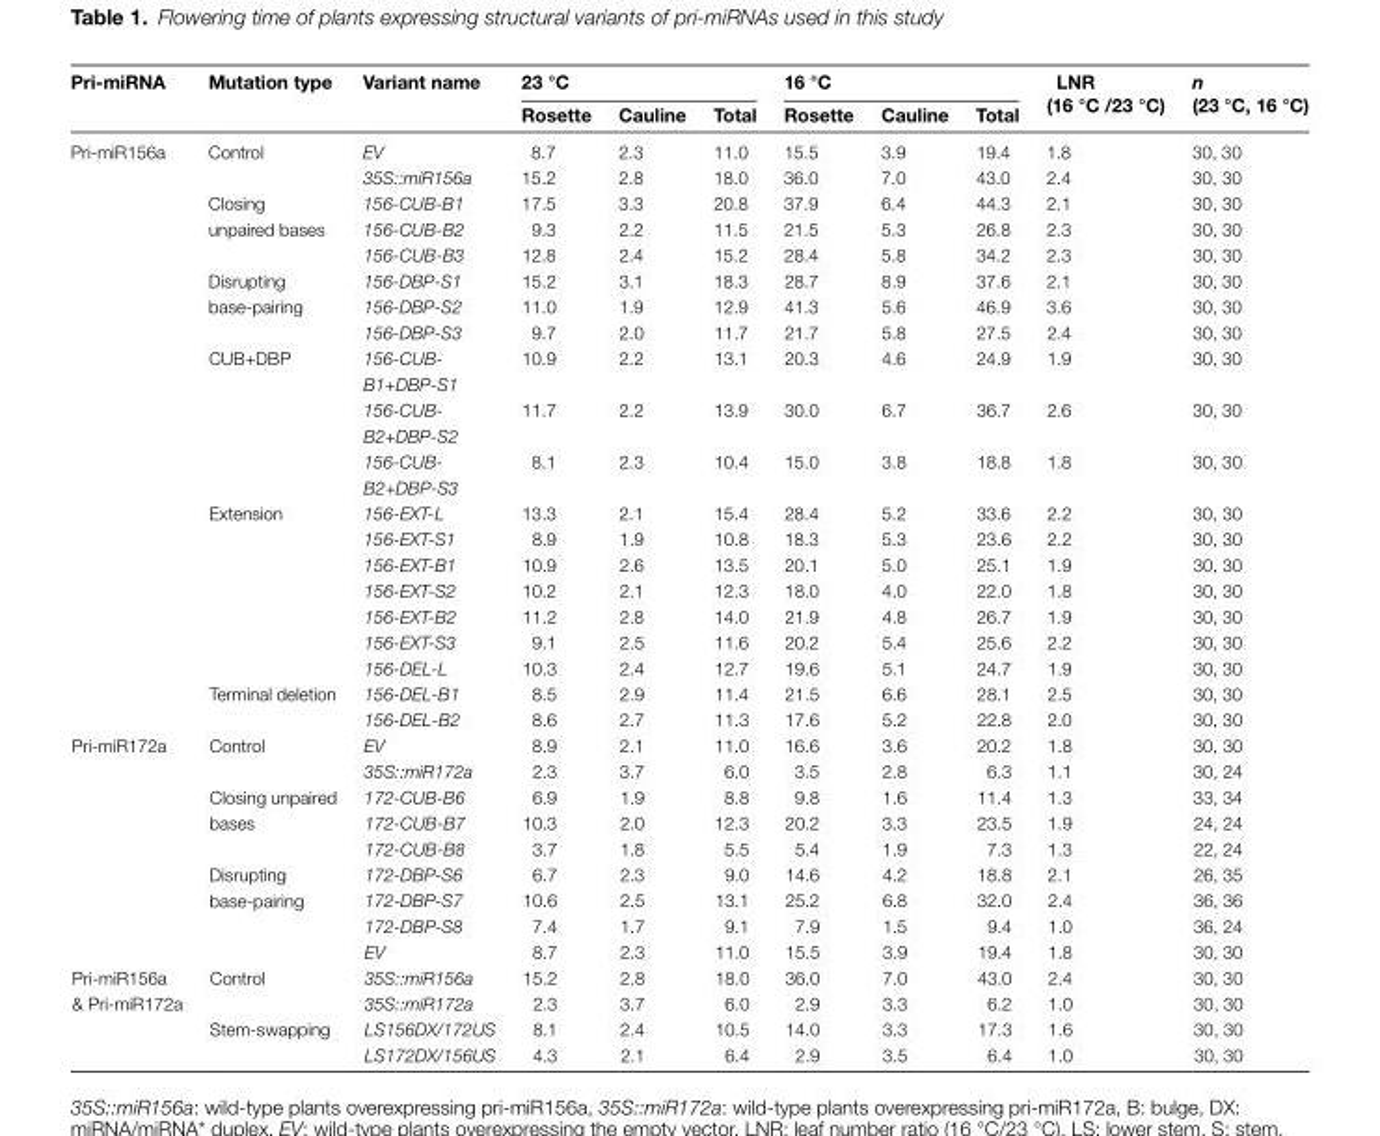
<table><thead><tr><td rowspan="2">Pri-miRNA</td><td rowspan="2">Mutation type</td><td rowspan="2">Variant name</td><td colspan="3">23 °C</td><td colspan="3">16 °C</td><td rowspan="2">LNR (16 °C /23 °C)</td><td rowspan="2">n (23 °C, 16 °C)</td></tr><tr><td>Rosette</td><td>Cauline</td><td>Total</td><td>Rosette</td><td>Cauline</td><td>Total</td></tr></thead><tbody><tr><td rowspan="20">Pri-miR156a</td><td rowspan="2">Control</td><td>EV</td><td>8.7</td><td>2.3</td><td>11.0</td><td>15.5</td><td>3.9</td><td>19.4</td><td>1.8</td><td>30, 30</td></tr><tr><td>35S::miR156a</td><td>15.2</td><td>2.8</td><td>18.0</td><td>36.0</td><td>7.0</td><td>43.0</td><td>2.4</td><td>30, 30</td></tr><tr><td rowspan="3">Closing unpaired bases</td><td>156-CUB-B1</td><td>17.5</td><td>3.3</td><td>20.8</td><td>37.9</td><td>6.4</td><td>44.3</td><td>2.1</td><td>30, 30</td></tr><tr><td>156-CUB-B2</td><td>9.3</td><td>2.2</td><td>11.5</td><td>21.5</td><td>5.3</td><td>26.8</td><td>2.3</td><td>30, 30</td></tr><tr><td>156-CUB-B3</td><td>12.8</td><td>2.4</td><td>15.2</td><td>28.4</td><td>5.8</td><td>34.2</td><td>2.3</td><td>30, 30</td></tr><tr><td rowspan="3">Disrupting base-pairing</td><td>156-DBP-S1</td><td>15.2</td><td>3.1</td><td>18.3</td><td>28.7</td><td>8.9</td><td>37.6</td><td>2.1</td><td>30, 30</td></tr><tr><td>156-DBP-S2</td><td>11.0</td><td>1.9</td><td>12.9</td><td>41.3</td><td>5.6</td><td>46.9</td><td>3.6</td><td>30, 30</td></tr><tr><td>156-DBP-S3</td><td>9.7</td><td>2.0</td><td>11.7</td><td>21.7</td><td>5.8</td><td>27.5</td><td>2.4</td><td>30, 30</td></tr><tr><td rowspan="3">CUB+DBP</td><td>156-CUB- B1+DBP-S1</td><td>10.9</td><td>2.2</td><td>13.1</td><td>20.3</td><td>4.6</td><td>24.9</td><td>1.9</td><td>30, 30</td></tr><tr><td>156-CUB- B2+DBP-S2</td><td>11.7</td><td>2.2</td><td>13.9</td><td>30.0</td><td>6.7</td><td>36.7</td><td>2.6</td><td>30, 30</td></tr><tr><td>156-CUB- B2+DBP-S3</td><td>8.1</td><td>2.3</td><td>10.4</td><td>15.0</td><td>3.8</td><td>18.8</td><td>1.8</td><td>30, 30</td></tr><tr><td rowspan="6">Extension</td><td>156-EXT-L</td><td>13.3</td><td>2.1</td><td>15.4</td><td>28.4</td><td>5.2</td><td>33.6</td><td>2.2</td><td>30, 30</td></tr><tr><td>156-EXT-S1</td><td>8.9</td><td>1.9</td><td>10.8</td><td>18.3</td><td>5.3</td><td>23.6</td><td>2.2</td><td>30, 30</td></tr><tr><td>156-EXT-B1</td><td>10.9</td><td>2.6</td><td>13.5</td><td>20.1</td><td>5.0</td><td>25.1</td><td>1.9</td><td>30, 30</td></tr><tr><td>156-EXT-S2</td><td>10.2</td><td>2.1</td><td>12.3</td><td>18.0</td><td>4.0</td><td>22.0</td><td>1.8</td><td>30, 30</td></tr><tr><td>156-EXT-B2</td><td>11.2</td><td>2.8</td><td>14.0</td><td>21.9</td><td>4.8</td><td>26.7</td><td>1.9</td><td>30, 30</td></tr><tr><td>156-EXT-S3</td><td>9.1</td><td>2.5</td><td>11.6</td><td>20.2</td><td>5.4</td><td>25.6</td><td>2.2</td><td>30, 30</td></tr><tr><td></td><td>156-DEL-L</td><td>10.3</td><td>2.4</td><td>12.7</td><td>19.6</td><td>5.1</td><td>24.7</td><td>1.9</td><td>30, 30</td></tr><tr><td>Terminal deletion</td><td>156-DEL-B1</td><td>8.5</td><td>2.9</td><td>11.4</td><td>21.5</td><td>6.6</td><td>28.1</td><td>2.5</td><td>30, 30</td></tr><tr><td></td><td>156-DEL-B2</td><td>8.6</td><td>2.7</td><td>11.3</td><td>17.6</td><td>5.2</td><td>22.8</td><td>2.0</td><td>30, 30</td></tr><tr><td rowspan="9">Pri-miR172a</td><td rowspan="2">Control</td><td>EV</td><td>8.9</td><td>2.1</td><td>11.0</td><td>16.6</td><td>3.6</td><td>20.2</td><td>1.8</td><td>30, 30</td></tr><tr><td>35S::miR172a</td><td>2.3</td><td>3.7</td><td>6.0</td><td>3.5</td><td>2.8</td><td>6.3</td><td>1.1</td><td>30, 24</td></tr><tr><td rowspan="3">Closing unpaired bases</td><td>172-CUB-B6</td><td>6.9</td><td>1.9</td><td>8.8</td><td>9.8</td><td>1.6</td><td>11.4</td><td>1.3</td><td>33, 34</td></tr><tr><td>172-CUB-B7</td><td>10.3</td><td>2.0</td><td>12.3</td><td>20.2</td><td>3.3</td><td>23.5</td><td>1.9</td><td>24, 24</td></tr><tr><td>172-CUB-B8</td><td>3.7</td><td>1.8</td><td>5.5</td><td>5.4</td><td>1.9</td><td>7.3</td><td>1.3</td><td>22, 24</td></tr><tr><td rowspan="3">Disrupting base-pairing</td><td>172-DBP-S6</td><td>6.7</td><td>2.3</td><td>9.0</td><td>14.6</td><td>4.2</td><td>18.8</td><td>2.1</td><td>26, 35</td></tr><tr><td>172-DBP-S7</td><td>10.6</td><td>2.5</td><td>13.1</td><td>25.2</td><td>6.8</td><td>32.0</td><td>2.4</td><td>36, 36</td></tr><tr><td>172-DBP-S8</td><td>7.4</td><td>1.7</td><td>9.1</td><td>7.9</td><td>1.5</td><td>9.4</td><td>1.0</td><td>36, 24</td></tr><tr><td></td><td>EV</td><td>8.7</td><td>2.3</td><td>11.0</td><td>15.5</td><td>3.9</td><td>19.4</td><td>1.8</td><td>30, 30</td></tr><tr><td rowspan="4">Pri-miR156a &amp; Pri-miR172a</td><td>Control</td><td>35S::miR156a</td><td>15.2</td><td>2.8</td><td>18.0</td><td>36.0</td><td>7.0</td><td>43.0</td><td>2.4</td><td>30, 30</td></tr><tr><td></td><td>35S::miR172a</td><td>2.3</td><td>3.7</td><td>6.0</td><td>2.9</td><td>3.3</td><td>6.2</td><td>1.0</td><td>30, 30</td></tr><tr><td rowspan="2">Stem-swapping</td><td>LS156DX/172US</td><td>8.1</td><td>2.4</td><td>10.5</td><td>14.0</td><td>3.3</td><td>17.3</td><td>1.6</td><td>30, 30</td></tr><tr><td>LS172DX/156US</td><td>4.3</td><td>2.1</td><td>6.4</td><td>2.9</td><td>3.5</td><td>6.4</td><td>1.0</td><td>30, 30</td></tr></tbody></table>